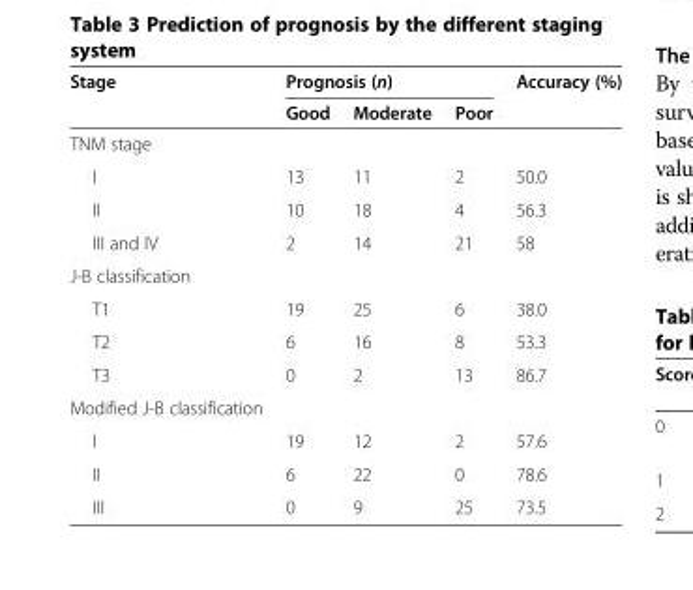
<table><thead><tr><td rowspan="2">Stage</td><td colspan="3">Prognosis (n)</td><td rowspan="2">Accuracy (%)</td></tr><tr><td>Good</td><td>Moderate</td><td>Poor</td></tr></thead><tbody><tr><td colspan="5">TNM stage</td></tr><tr><td>I</td><td>13</td><td>11</td><td>2</td><td>50.0</td></tr><tr><td>II</td><td>10</td><td>18</td><td>4</td><td>56.3</td></tr><tr><td>III and IV</td><td>2</td><td>14</td><td>21</td><td>58</td></tr><tr><td colspan="5">J-B classification</td></tr><tr><td>T1</td><td>19</td><td>25</td><td>6</td><td>38.0</td></tr><tr><td>T2</td><td>6</td><td>16</td><td>8</td><td>53.3</td></tr><tr><td>T3</td><td>0</td><td>2</td><td>13</td><td>86.7</td></tr><tr><td colspan="5">Modified J-B classification</td></tr><tr><td>I</td><td>19</td><td>12</td><td>2</td><td>57.6</td></tr><tr><td>II</td><td>6</td><td>22</td><td>0</td><td>78.6</td></tr><tr><td>III</td><td>0</td><td>9</td><td>25</td><td>73.5</td></tr></tbody></table>